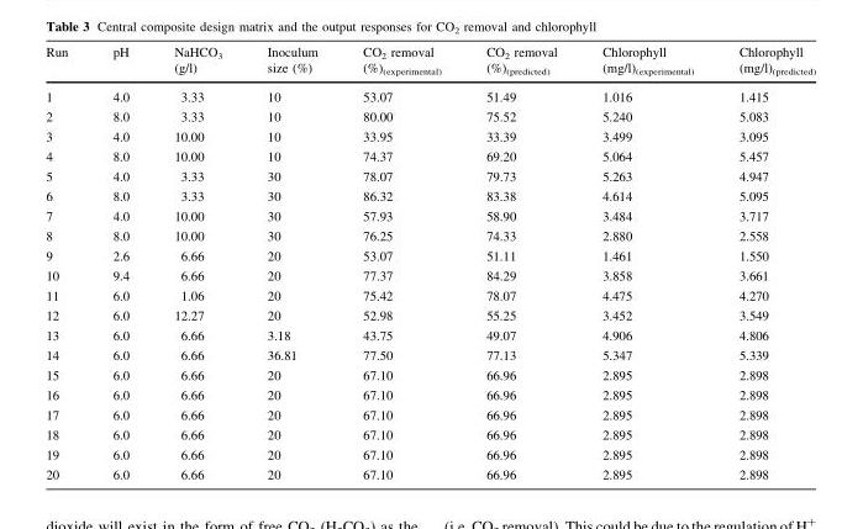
<table><thead><tr><td>Run</td><td>pH</td><td>NaHCO<sub>3</sub> (g/l)</td><td>Inoculum size (%)</td><td>CO<sub>2</sub> removal (%)<sub>(experimental)</sub></td><td>CO<sub>2</sub> removal (%)<sub>(predicted)</sub></td><td>Chlorophyll (mg/l)<sub>(experimental)</sub></td><td>Chlorophyll (mg/l)<sub>(predicted)</sub></td></tr></thead><tbody><tr><td>1</td><td>4.0</td><td>3.33</td><td>10</td><td>53.07</td><td>51.49</td><td>1.016</td><td>1.415</td></tr><tr><td>2</td><td>8.0</td><td>3.33</td><td>10</td><td>80.00</td><td>75.52</td><td>5.240</td><td>5.083</td></tr><tr><td>3</td><td>4.0</td><td>10.00</td><td>10</td><td>33.95</td><td>33.39</td><td>3.499</td><td>3.095</td></tr><tr><td>4</td><td>8.0</td><td>10.00</td><td>10</td><td>74.37</td><td>69.20</td><td>5.064</td><td>5.457</td></tr><tr><td>5</td><td>4.0</td><td>3.33</td><td>30</td><td>78.07</td><td>79.73</td><td>5.263</td><td>4.947</td></tr><tr><td>6</td><td>8.0</td><td>3.33</td><td>30</td><td>86.32</td><td>83.38</td><td>4.614</td><td>5.095</td></tr><tr><td>7</td><td>4.0</td><td>10.00</td><td>30</td><td>57.93</td><td>58.90</td><td>3.484</td><td>3.717</td></tr><tr><td>8</td><td>8.0</td><td>10.00</td><td>30</td><td>76.25</td><td>74.33</td><td>2.880</td><td>2.558</td></tr><tr><td>9</td><td>2.6</td><td>6.66</td><td>20</td><td>53.07</td><td>51.11</td><td>1.461</td><td>1.550</td></tr><tr><td>10</td><td>9.4</td><td>6.66</td><td>20</td><td>77.37</td><td>84.29</td><td>3.858</td><td>3.661</td></tr><tr><td>11</td><td>6.0</td><td>1.06</td><td>20</td><td>75.42</td><td>78.07</td><td>4.475</td><td>4.270</td></tr><tr><td>12</td><td>6.0</td><td>12.27</td><td>20</td><td>52.98</td><td>55.25</td><td>3.452</td><td>3.549</td></tr><tr><td>13</td><td>6.0</td><td>6.66</td><td>3.18</td><td>43.75</td><td>49.07</td><td>4.906</td><td>4.806</td></tr><tr><td>14</td><td>6.0</td><td>6.66</td><td>36.81</td><td>77.50</td><td>77.13</td><td>5.347</td><td>5.339</td></tr><tr><td>15</td><td>6.0</td><td>6.66</td><td>20</td><td>67.10</td><td>66.96</td><td>2.895</td><td>2.898</td></tr><tr><td>16</td><td>6.0</td><td>6.66</td><td>20</td><td>67.10</td><td>66.96</td><td>2.895</td><td>2.898</td></tr><tr><td>17</td><td>6.0</td><td>6.66</td><td>20</td><td>67.10</td><td>66.96</td><td>2.895</td><td>2.898</td></tr><tr><td>18</td><td>6.0</td><td>6.66</td><td>20</td><td>67.10</td><td>66.96</td><td>2.895</td><td>2.898</td></tr><tr><td>19</td><td>6.0</td><td>6.66</td><td>20</td><td>67.10</td><td>66.96</td><td>2.895</td><td>2.898</td></tr><tr><td>20</td><td>6.0</td><td>6.66</td><td>20</td><td>67.10</td><td>66.96</td><td>2.895</td><td>2.898</td></tr></tbody></table>